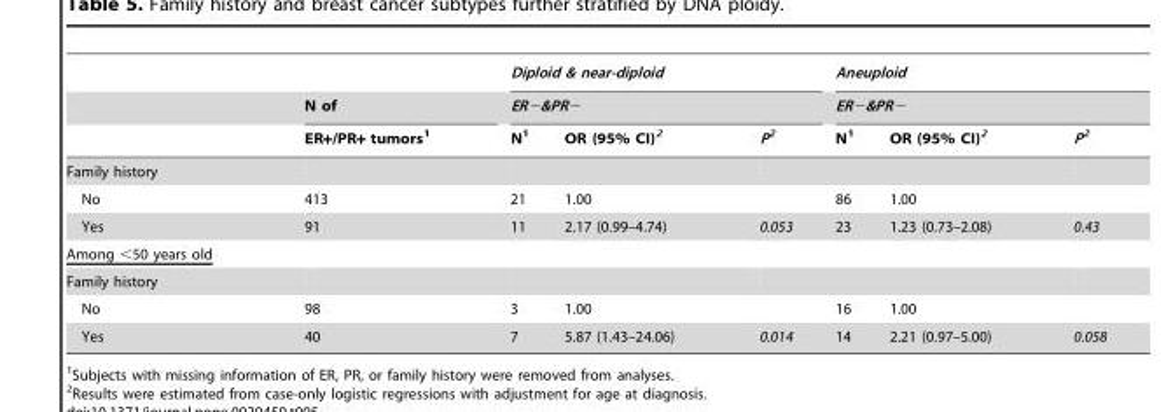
<table><thead><tr><td rowspan="3"></td><td rowspan="3">N of ER+/PR+ tumors<sup>1</sup></td><td rowspan="2" colspan="3">Diploid &amp; near-diploid ER−&amp;PR−</td><td rowspan="2" colspan="3">Aneuploid ER−&amp;PR−</td></tr><tr></tr><tr><td>N<sup>1</sup></td><td>OR (95% CI)<sup>2</sup></td><td>P2</td><td>N<sup>1</sup></td><td>OR (95% CI)<sup>2</sup></td><td>P2</td></tr></thead><tbody><tr><td colspan="8">Family history</td></tr><tr><td>No</td><td>413</td><td>21</td><td>1.00</td><td></td><td>86</td><td>1.00</td><td></td></tr><tr><td>Yes</td><td>91</td><td>11</td><td>2.17 (0.99–4.74)</td><td>0.053</td><td>23</td><td>1.23 (0.73–2.08)</td><td>0.43</td></tr><tr><td colspan="8">Among &lt;50 years old</td></tr><tr><td colspan="8">Family history</td></tr><tr><td>No</td><td>98</td><td>3</td><td>1.00</td><td></td><td>16</td><td>1.00</td><td></td></tr><tr><td>Yes</td><td>40</td><td>7</td><td>5.87 (1.43–24.06)</td><td>0.014</td><td>14</td><td>2.21 (0.97–5.00)</td><td>0.058</td></tr></tbody></table>